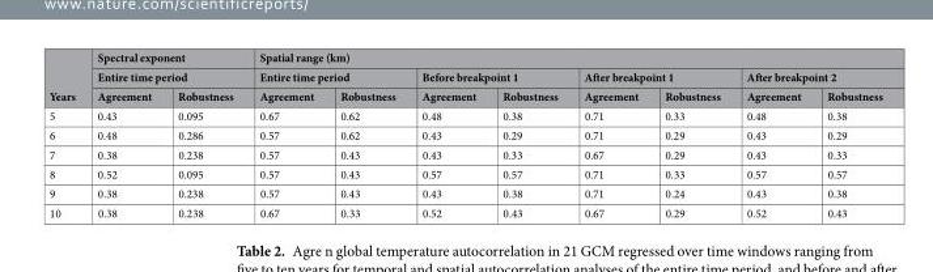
<table><thead><tr><td rowspan="3">Years</td><td rowspan="2" colspan="2">Spectral exponent Entire time period</td><td colspan="8">Spatial range (km)</td></tr><tr><td colspan="2">Entire time period</td><td colspan="2">Before breakpoint 1</td><td colspan="2">After breakpoint 1</td><td colspan="2">After breakpoint 2</td></tr><tr><td>Agreement</td><td>Robustness</td><td>Agreement</td><td>Robustness</td><td>Agreement</td><td>Robustness</td><td>Agreement</td><td>Robustness</td><td>Agreement</td><td>Robustness</td></tr></thead><tbody><tr><td>5</td><td>0.43</td><td>0.095</td><td>0.67</td><td>0.62</td><td>0.48</td><td>0.38</td><td>0.71</td><td>0.33</td><td>0.48</td><td>0.38</td></tr><tr><td>6</td><td>0.48</td><td>0.286</td><td>0.57</td><td>0.62</td><td>0.43</td><td>0.29</td><td>0.71</td><td>0.29</td><td>0.43</td><td>0.29</td></tr><tr><td>7</td><td>0.38</td><td>0.238</td><td>0.57</td><td>0.43</td><td>0.43</td><td>0.33</td><td>0.67</td><td>0.29</td><td>0.43</td><td>0.33</td></tr><tr><td>8</td><td>0.52</td><td>0.095</td><td>0.57</td><td>0.43</td><td>0.57</td><td>0.57</td><td>0.71</td><td>0.33</td><td>0.57</td><td>0.57</td></tr><tr><td>9</td><td>0.38</td><td>0.238</td><td>0.57</td><td>0.43</td><td>0.43</td><td>0.38</td><td>0.71</td><td>0.24</td><td>0.43</td><td>0.38</td></tr><tr><td>10</td><td>0.38</td><td>0.238</td><td>0.67</td><td>0.33</td><td>0.52</td><td>0.43</td><td>0.67</td><td>0.29</td><td>0.52</td><td>0.43</td></tr></tbody></table>